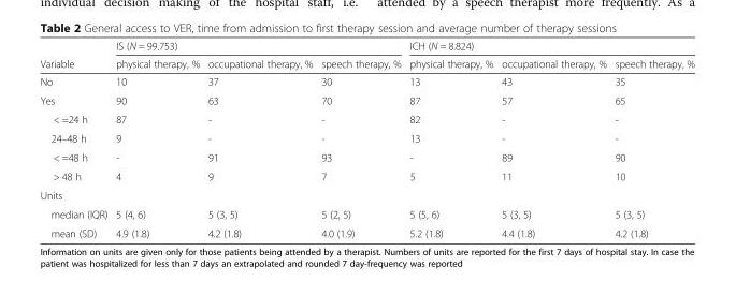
<table><thead><tr><td rowspan="2">Variable</td><td colspan="3">IS (N = 99.753)</td><td colspan="3">ICH (N = 8.824)</td></tr><tr><td>physical therapy, %</td><td>occupational therapy, %</td><td>speech therapy, %</td><td>physical therapy, %</td><td>occupational therapy, %</td><td>speech therapy, %</td></tr></thead><tbody><tr><td>No</td><td>10</td><td>37</td><td>30</td><td>13</td><td>43</td><td>35</td></tr><tr><td>Yes</td><td>90</td><td>63</td><td>70</td><td>87</td><td>57</td><td>65</td></tr><tr><td>&lt; =24 h</td><td>87</td><td>-</td><td>-</td><td>82</td><td>-</td><td>-</td></tr><tr><td>24–48 h</td><td>9</td><td>-</td><td>-</td><td>13</td><td>-</td><td>-</td></tr><tr><td>&lt; =48 h</td><td>-</td><td>91</td><td>93</td><td>-</td><td>89</td><td>90</td></tr><tr><td>&gt; 48 h</td><td>4</td><td>9</td><td>7</td><td>5</td><td>11</td><td>10</td></tr><tr><td colspan="7">Units</td></tr><tr><td>median (IQR)</td><td>5 (4, 6)</td><td>5 (3, 5)</td><td>5 (2, 5)</td><td>5 (5, 6)</td><td>5 (3, 5)</td><td>5 (3, 5)</td></tr><tr><td>mean (SD)</td><td>4.9 (1.8)</td><td>4.2 (1.8)</td><td>4.0 (1.9)</td><td>5.2 (1.8)</td><td>4.4 (1.8)</td><td>4.2 (1.8)</td></tr></tbody></table>